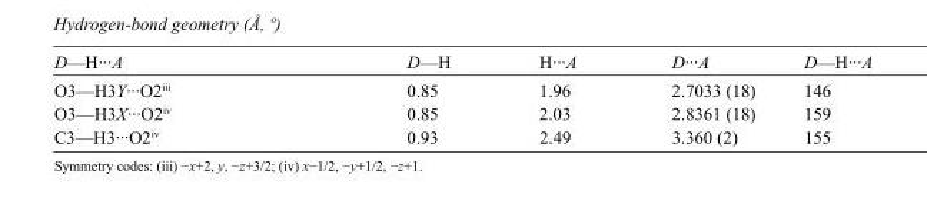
<table><tbody><tr><td>D—H···A</td><td>D—H</td><td>H···A</td><td>D···A</td><td>D—H···A</td></tr><tr><td>O3—H3Y···O2<sup>iii</sup></td><td>0.85</td><td>1.96</td><td>2.7033 (18)</td><td>146</td></tr><tr><td>O3—H3X···O2<sup>iv</sup></td><td>0.85</td><td>2.03</td><td>2.8361 (18)</td><td>159</td></tr><tr><td>C3—H3···O2<sup>iv</sup></td><td>0.93</td><td>2.49</td><td>3.360 (2)</td><td>155</td></tr></tbody></table>